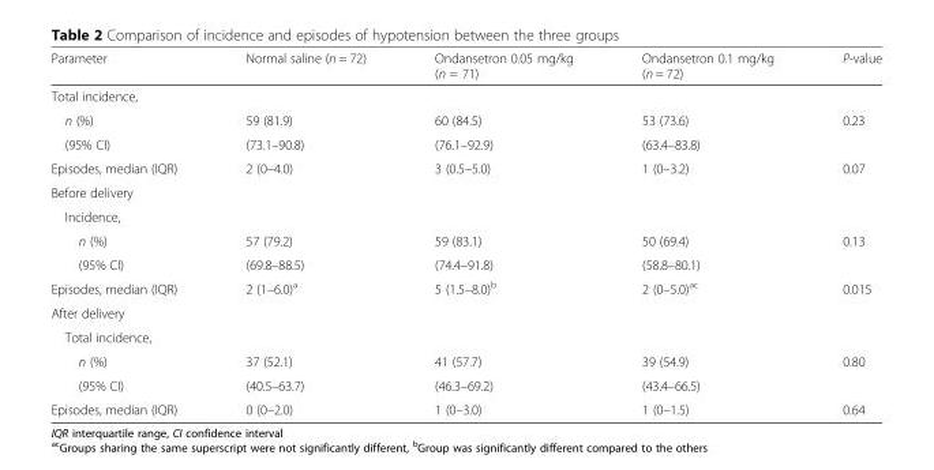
<table><thead><tr><td>Parameter</td><td>Normal saline (n = 72)</td><td>Ondansetron 0.05 mg/kg (n = 71)</td><td>Ondansetron 0.1 mg/kg (n = 72)</td><td>P-value</td></tr></thead><tbody><tr><td colspan="5">Total incidence,</td></tr><tr><td>n (%)</td><td>59 (81.9)</td><td>60 (84.5)</td><td>53 (73.6)</td><td>0.23</td></tr><tr><td>(95% CI)</td><td>(73.1–90.8)</td><td>(76.1–92.9)</td><td>(63.4–83.8)</td><td></td></tr><tr><td>Episodes, median (IQR)</td><td>2 (0–4.0)</td><td>3 (0.5–5.0)</td><td>1 (0–3.2)</td><td>0.07</td></tr><tr><td colspan="5">Before delivery</td></tr><tr><td colspan="5">Incidence,</td></tr><tr><td>n (%)</td><td>57 (79.2)</td><td>59 (83.1)</td><td>50 (69.4)</td><td>0.13</td></tr><tr><td>(95% CI)</td><td>(69.8–88.5)</td><td>(74.4–91.8)</td><td>(58.8–80.1)</td><td></td></tr><tr><td>Episodes, median (IQR)</td><td>2 (1–6.0)<sup>a</sup></td><td>5 (1.5–8.0)<sup>b</sup></td><td>2 (0–5.0)<sup>ac</sup></td><td>0.015</td></tr><tr><td colspan="5">After delivery</td></tr><tr><td colspan="5">Total incidence,</td></tr><tr><td>n (%)</td><td>37 (52.1)</td><td>41 (57.7)</td><td>39 (54.9)</td><td>0.80</td></tr><tr><td>(95% CI)</td><td>(40.5–63.7)</td><td>(46.3–69.2)</td><td>(43.4–66.5)</td><td></td></tr><tr><td>Episodes, median (IQR)</td><td>0 (0–2.0)</td><td>1 (0–3.0)</td><td>1 (0–1.5)</td><td>0.64</td></tr></tbody></table>